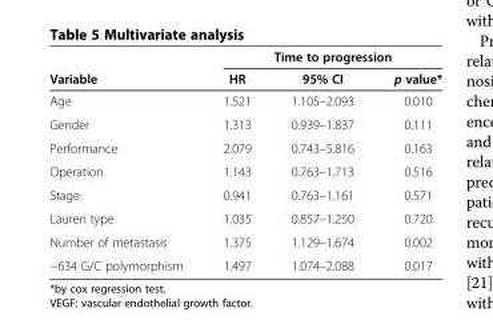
<table><thead><tr><td rowspan="2">Variable</td><td colspan="3">Time to progression</td></tr><tr><td>HR</td><td>95% CI</td><td>p value*</td></tr></thead><tbody><tr><td>Age</td><td>1.521</td><td>1.105–2.093</td><td>0.010</td></tr><tr><td>Gender</td><td>1.313</td><td>0.939–1.837</td><td>0.111</td></tr><tr><td>Performance</td><td>2.079</td><td>0.743–5.816</td><td>0.163</td></tr><tr><td>Operation</td><td>1.143</td><td>0.763–1.713</td><td>0.516</td></tr><tr><td>Stage</td><td>0.941</td><td>0.763–1.161</td><td>0.571</td></tr><tr><td>Lauren type</td><td>1.035</td><td>0.857–1.250</td><td>0.720</td></tr><tr><td>Number of metastasis</td><td>1.375</td><td>1.129–1.674</td><td>0.002</td></tr><tr><td>−634 G/C polymorphism</td><td>1.497</td><td>1.074–2.088</td><td>0.017</td></tr></tbody></table>